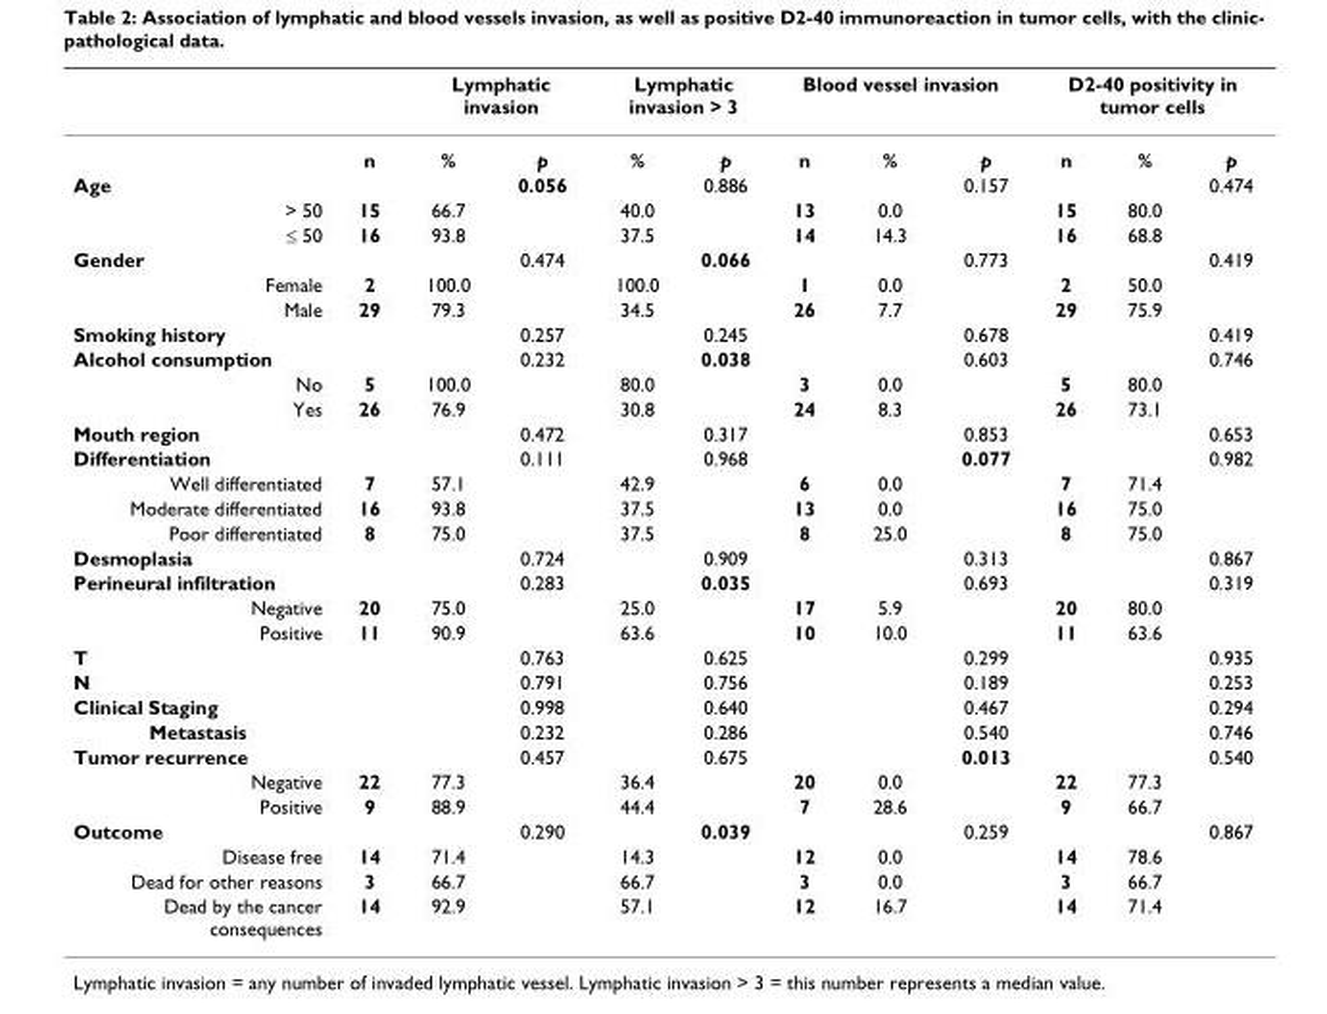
<table><thead><tr><td rowspan="2"></td><td rowspan="2">n</td><td colspan="2">Lymphatic invasion</td><td colspan="2">Lymphatic invasion &gt; 3</td><td colspan="3">Blood vessel invasion</td><td colspan="3">D2-40 positivity in tumor cells</td></tr><tr><td>%</td><td>p</td><td>%</td><td>p</td><td>n</td><td>%</td><td>p</td><td>n</td><td>%</td><td>p</td></tr></thead><tbody><tr><td>Age</td><td></td><td></td><td>0.056</td><td></td><td>0.886</td><td></td><td></td><td>0.157</td><td></td><td></td><td>0.474</td></tr><tr><td>&gt; 50</td><td>15</td><td>66.7</td><td></td><td>40.0</td><td></td><td>13</td><td>0.0</td><td></td><td>15</td><td>80.0</td><td></td></tr><tr><td>≤ 50</td><td>16</td><td>93.8</td><td></td><td>37.5</td><td></td><td>14</td><td>14.3</td><td></td><td>16</td><td>68.8</td><td></td></tr><tr><td>Gender</td><td></td><td></td><td>0.474</td><td></td><td>0.066</td><td></td><td></td><td>0.773</td><td></td><td></td><td>0.419</td></tr><tr><td>Female</td><td>2</td><td>100.0</td><td></td><td>100.0</td><td></td><td>1</td><td>0.0</td><td></td><td>2</td><td>50.0</td><td></td></tr><tr><td>Male</td><td>29</td><td>79.3</td><td></td><td>34.5</td><td></td><td>26</td><td>7.7</td><td></td><td>29</td><td>75.9</td><td></td></tr><tr><td>Smoking history</td><td></td><td></td><td>0.257</td><td></td><td>0.245</td><td></td><td></td><td>0.678</td><td></td><td></td><td>0.419</td></tr><tr><td>Alcohol consumption</td><td></td><td></td><td>0.232</td><td></td><td>0.038</td><td></td><td></td><td>0.603</td><td></td><td></td><td>0.746</td></tr><tr><td>No</td><td>5</td><td>100.0</td><td></td><td>80.0</td><td></td><td>3</td><td>0.0</td><td></td><td>5</td><td>80.0</td><td></td></tr><tr><td>Yes</td><td>26</td><td>76.9</td><td></td><td>30.8</td><td></td><td>24</td><td>8.3</td><td></td><td>26</td><td>73.1</td><td></td></tr><tr><td>Mouth region</td><td></td><td></td><td>0.472</td><td></td><td>0.317</td><td></td><td></td><td>0.853</td><td></td><td></td><td>0.653</td></tr><tr><td>Differentiation</td><td></td><td></td><td>0.111</td><td></td><td>0.968</td><td></td><td></td><td>0.077</td><td></td><td></td><td>0.982</td></tr><tr><td>Well differentiated</td><td>7</td><td>57.1</td><td></td><td>42.9</td><td></td><td>6</td><td>0.0</td><td></td><td>7</td><td>71.4</td><td></td></tr><tr><td>Moderate differentiated</td><td>16</td><td>93.8</td><td></td><td>37.5</td><td></td><td>13</td><td>0.0</td><td></td><td>16</td><td>75.0</td><td></td></tr><tr><td>Poor differentiated</td><td>8</td><td>75.0</td><td></td><td>37.5</td><td></td><td>8</td><td>25.0</td><td></td><td>8</td><td>75.0</td><td></td></tr><tr><td>Desmoplasia</td><td></td><td></td><td>0.724</td><td></td><td>0.909</td><td></td><td></td><td>0.313</td><td></td><td></td><td>0.867</td></tr><tr><td>Perineural infiltration</td><td></td><td></td><td>0.283</td><td></td><td>0.035</td><td></td><td></td><td>0.693</td><td></td><td></td><td>0.319</td></tr><tr><td>Negative</td><td>20</td><td>75.0</td><td></td><td>25.0</td><td></td><td>17</td><td>5.9</td><td></td><td>20</td><td>80.0</td><td></td></tr><tr><td>Positive</td><td>11</td><td>90.9</td><td></td><td>63.6</td><td></td><td>10</td><td>10.0</td><td></td><td>11</td><td>63.6</td><td></td></tr><tr><td>T</td><td></td><td></td><td>0.763</td><td></td><td>0.625</td><td></td><td></td><td>0.299</td><td></td><td></td><td>0.935</td></tr><tr><td>N</td><td></td><td></td><td>0.791</td><td></td><td>0.756</td><td></td><td></td><td>0.189</td><td></td><td></td><td>0.253</td></tr><tr><td>Clinical Staging</td><td></td><td></td><td>0.998</td><td></td><td>0.640</td><td></td><td></td><td>0.467</td><td></td><td></td><td>0.294</td></tr><tr><td>Metastasis</td><td></td><td></td><td>0.232</td><td></td><td>0.286</td><td></td><td></td><td>0.540</td><td></td><td></td><td>0.746</td></tr><tr><td>Tumor recurrence</td><td></td><td></td><td>0.457</td><td></td><td>0.675</td><td></td><td></td><td>0.013</td><td></td><td></td><td>0.540</td></tr><tr><td>Negative</td><td>22</td><td>77.3</td><td></td><td>36.4</td><td></td><td>20</td><td>0.0</td><td></td><td>22</td><td>77.3</td><td></td></tr><tr><td>Positive</td><td>9</td><td>88.9</td><td></td><td>44.4</td><td></td><td>7</td><td>28.6</td><td></td><td>9</td><td>66.7</td><td></td></tr><tr><td>Outcome</td><td></td><td></td><td>0.290</td><td></td><td>0.039</td><td></td><td></td><td>0.259</td><td></td><td></td><td>0.867</td></tr><tr><td>Disease free</td><td>14</td><td>71.4</td><td></td><td>14.3</td><td></td><td>12</td><td>0.0</td><td></td><td>14</td><td>78.6</td><td></td></tr><tr><td>Dead for other reasons</td><td>3</td><td>66.7</td><td></td><td>66.7</td><td></td><td>3</td><td>0.0</td><td></td><td>3</td><td>66.7</td><td></td></tr><tr><td>Dead by the cancer consequences</td><td>14</td><td>92.9</td><td></td><td>57.1</td><td></td><td>12</td><td>16.7</td><td></td><td>14</td><td>71.4</td><td></td></tr></tbody></table>